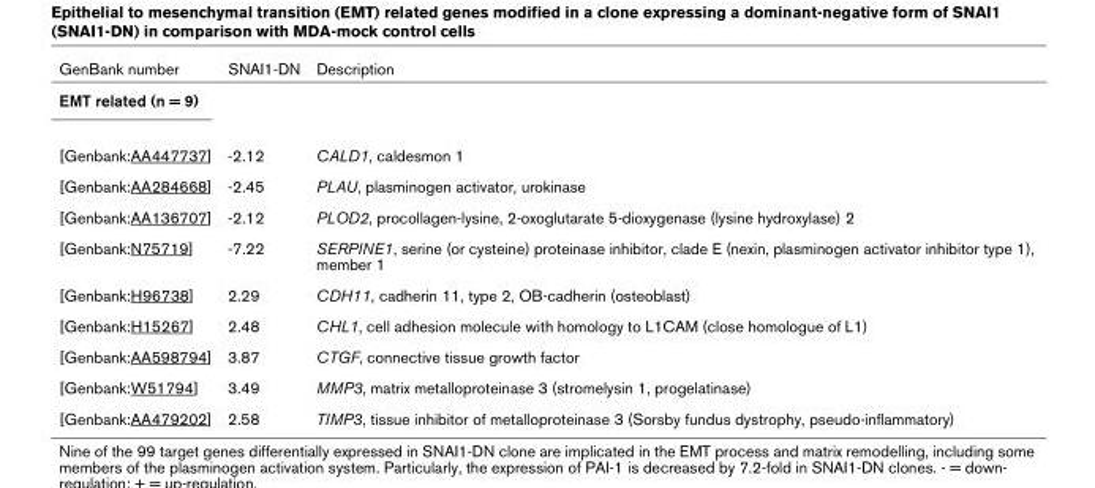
<table><thead><tr><td>GenBank number</td><td>SNAI1-DN</td><td>Description</td></tr></thead><tbody><tr><td colspan="3">EMT related (n = 9)</td></tr><tr><td>[Genbank:AA447737]</td><td>-2.12</td><td>CALD1, caldesmon 1</td></tr><tr><td>[Genbank:AA284668]</td><td>-2.45</td><td>PLAU, plasminogen activator, urokinase</td></tr><tr><td>[Genbank:AA136707]</td><td>-2.12</td><td>PLOD2, procollagen-lysine, 2-oxoglutarate 5-dioxygenase (lysine hydroxylase) 2</td></tr><tr><td>[Genbank:N75719]</td><td>-7.22</td><td>SERPINE1, serine (or cysteine) proteinase inhibitor, clade E (nexin, plasminogen activator inhibitor type 1), member 1</td></tr><tr><td>[Genbank:H96738]</td><td>2.29</td><td>CDH11, cadherin 11, type 2, OB-cadherin (osteoblast)</td></tr><tr><td>[Genbank:H15267]</td><td>2.48</td><td>CHL1, cell adhesion molecule with homology to L1CAM (close homologue of L1)</td></tr><tr><td>[Genbank:AA598794]</td><td>3.87</td><td>CTGF, connective tissue growth factor</td></tr><tr><td>[Genbank:W51794]</td><td>3.49</td><td>MMP3, matrix metalloproteinase 3 (stromelysin 1, progelatinase)</td></tr><tr><td>[Genbank:AA479202]</td><td>2.58</td><td>TIMP3, tissue inhibitor of metalloproteinase 3 (Sorsby fundus dystrophy, pseudo-inflammatory)</td></tr></tbody></table>